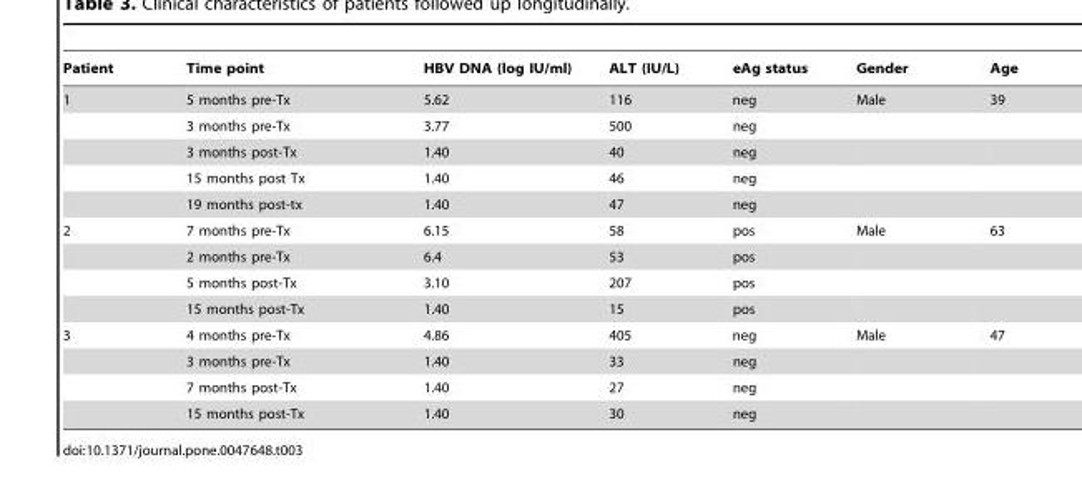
<table><thead><tr><td>Patient</td><td>Time point</td><td>HBV DNA (log IU/ml)</td><td>ALT (IU/L)</td><td>eAg status</td><td>Gender</td><td>Age</td></tr></thead><tbody><tr><td rowspan="5">1</td><td>5 months pre-Tx</td><td>5.62</td><td>116</td><td>neg</td><td>Male</td><td>39</td></tr><tr><td>3 months pre-Tx</td><td>3.77</td><td>500</td><td>neg</td><td></td><td></td></tr><tr><td>3 months post-Tx</td><td>1.40</td><td>40</td><td>neg</td><td></td><td></td></tr><tr><td>15 months post Tx</td><td>1.40</td><td>46</td><td>neg</td><td></td><td></td></tr><tr><td>19 months post-tx</td><td>1.40</td><td>47</td><td>neg</td><td></td><td></td></tr><tr><td rowspan="4">2</td><td>7 months pre-Tx</td><td>6.15</td><td>58</td><td>pos</td><td>Male</td><td>63</td></tr><tr><td>2 months pre-Tx</td><td>6.4</td><td>53</td><td>pos</td><td></td><td></td></tr><tr><td>5 months post-Tx</td><td>3.10</td><td>207</td><td>pos</td><td></td><td></td></tr><tr><td>15 months post-Tx</td><td>1.40</td><td>15</td><td>pos</td><td></td><td></td></tr><tr><td rowspan="4">3</td><td>4 months pre-Tx</td><td>4.86</td><td>405</td><td>neg</td><td>Male</td><td>47</td></tr><tr><td>3 months pre-Tx</td><td>1.40</td><td>33</td><td>neg</td><td></td><td></td></tr><tr><td>7 months post-Tx</td><td>1.40</td><td>27</td><td>neg</td><td></td><td></td></tr><tr><td>15 months post-Tx</td><td>1.40</td><td>30</td><td>neg</td><td></td><td></td></tr></tbody></table>